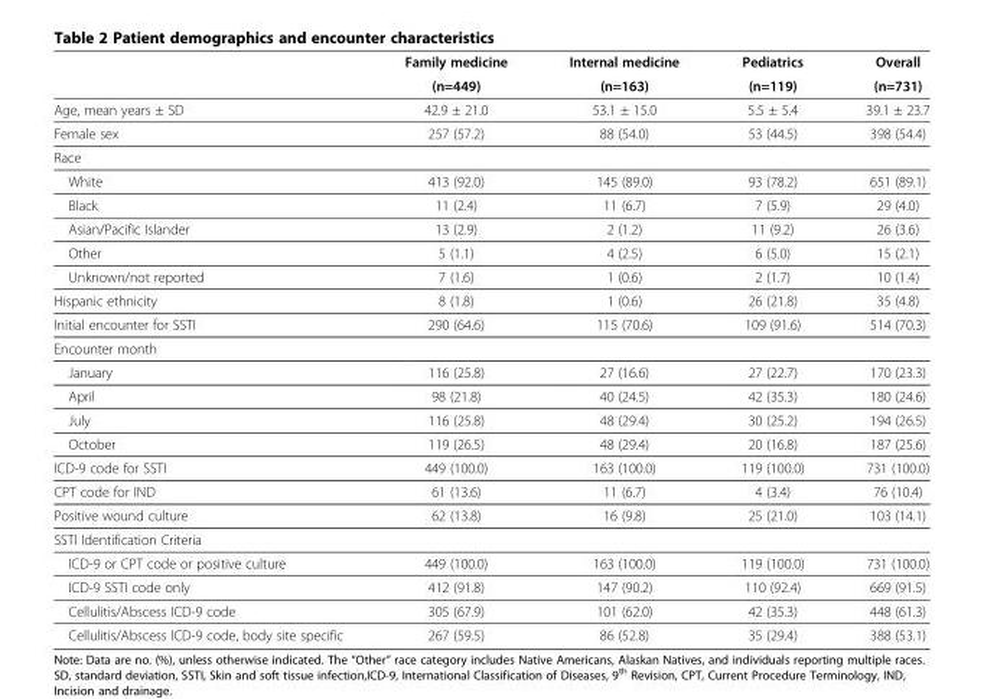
<table><thead><tr><td rowspan="2"></td><td rowspan="2">Family medicine (n=449)</td><td rowspan="2">Internal medicine (n=163)</td><td rowspan="2">Pediatrics (n=119)</td><td rowspan="2">Overall (n=731)</td></tr><tr></tr></thead><tbody><tr><td>Age, mean years ± SD</td><td>42.9 ± 21.0</td><td>53.1 ± 15.0</td><td>5.5 ± 5.4</td><td>39.1 ± 23.7</td></tr><tr><td>Female sex</td><td>257 (57.2)</td><td>88 (54.0)</td><td>53 (44.5)</td><td>398 (54.4)</td></tr><tr><td colspan="5">Race</td></tr><tr><td>White</td><td>413 (92.0)</td><td>145 (89.0)</td><td>93 (78.2)</td><td>651 (89.1)</td></tr><tr><td>Black</td><td>11 (2.4)</td><td>11 (6.7)</td><td>7 (5.9)</td><td>29 (4.0)</td></tr><tr><td>Asian/Pacific Islander</td><td>13 (2.9)</td><td>2 (1.2)</td><td>11 (9.2)</td><td>26 (3.6)</td></tr><tr><td>Other</td><td>5 (1.1)</td><td>4 (2.5)</td><td>6 (5.0)</td><td>15 (2.1)</td></tr><tr><td>Unknown/not reported</td><td>7 (1.6)</td><td>1 (0.6)</td><td>2 (1.7)</td><td>10 (1.4)</td></tr><tr><td>Hispanic ethnicity</td><td>8 (1.8)</td><td>1 (0.6)</td><td>26 (21.8)</td><td>35 (4.8)</td></tr><tr><td>Initial encounter for SSTI</td><td>290 (64.6)</td><td>115 (70.6)</td><td>109 (91.6)</td><td>514 (70.3)</td></tr><tr><td colspan="5">Encounter month</td></tr><tr><td>January</td><td>116 (25.8)</td><td>27 (16.6)</td><td>27 (22.7)</td><td>170 (23.3)</td></tr><tr><td>April</td><td>98 (21.8)</td><td>40 (24.5)</td><td>42 (35.3)</td><td>180 (24.6)</td></tr><tr><td>July</td><td>116 (25.8)</td><td>48 (29.4)</td><td>30 (25.2)</td><td>194 (26.5)</td></tr><tr><td>October</td><td>119 (26.5)</td><td>48 (29.4)</td><td>20 (16.8)</td><td>187 (25.6)</td></tr><tr><td>ICD-9 code for SSTI</td><td>449 (100.0)</td><td>163 (100.0)</td><td>119 (100.0)</td><td>731 (100.0)</td></tr><tr><td>CPT code for IND</td><td>61 (13.6)</td><td>11 (6.7)</td><td>4 (3.4)</td><td>76 (10.4)</td></tr><tr><td>Positive wound culture</td><td>62 (13.8)</td><td>16 (9.8)</td><td>25 (21.0)</td><td>103 (14.1)</td></tr><tr><td colspan="5">SSTI Identification Criteria</td></tr><tr><td>ICD-9 or CPT code or positive culture</td><td>449 (100.0)</td><td>163 (100.0)</td><td>119 (100.0)</td><td>731 (100.0)</td></tr><tr><td>ICD-9 SSTI code only</td><td>412 (91.8)</td><td>147 (90.2)</td><td>110 (92.4)</td><td>669 (91.5)</td></tr><tr><td>Cellulitis/Abscess ICD-9 code</td><td>305 (67.9)</td><td>101 (62.0)</td><td>42 (35.3)</td><td>448 (61.3)</td></tr><tr><td>Cellulitis/Abscess ICD-9 code, body site specific</td><td>267 (59.5)</td><td>86 (52.8)</td><td>35 (29.4)</td><td>388 (53.1)</td></tr></tbody></table>